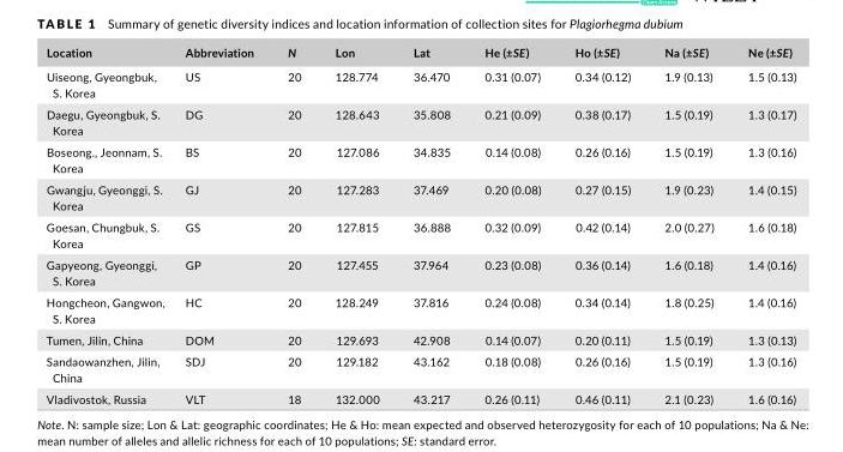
<table><thead><tr><td>Location</td><td>Abbreviation</td><td>N</td><td>Lon</td><td>Lat</td><td>He (±SE)</td><td>Ho (±SE)</td><td>Na (±SE)</td><td>Ne (±SE)</td></tr></thead><tbody><tr><td>Uiseong, Gyeongbuk, S. Korea</td><td>US</td><td>20</td><td>128.774</td><td>36.470</td><td>0.31 (0.07)</td><td>0.34 (0.12)</td><td>1.9 (0.13)</td><td>1.5 (0.13)</td></tr><tr><td>Daegu, Gyeongbuk, S. Korea</td><td>DG</td><td>20</td><td>128.643</td><td>35.808</td><td>0.21 (0.09)</td><td>0.38 (0.17)</td><td>1.5 (0.19)</td><td>1.3 (0.17)</td></tr><tr><td>Boseong., Jeonnam, S. Korea</td><td>BS</td><td>20</td><td>127.086</td><td>34.835</td><td>0.14 (0.08)</td><td>0.26 (0.16)</td><td>1.5 (0.19)</td><td>1.3 (0.16)</td></tr><tr><td>Gwangju, Gyeonggi, S. Korea</td><td>GJ</td><td>20</td><td>127.283</td><td>37.469</td><td>0.20 (0.08)</td><td>0.27 (0.15)</td><td>1.9 (0.23)</td><td>1.4 (0.15)</td></tr><tr><td>Goesan, Chungbuk, S. Korea</td><td>GS</td><td>20</td><td>127.815</td><td>36.888</td><td>0.32 (0.09)</td><td>0.42 (0.14)</td><td>2.0 (0.27)</td><td>1.6 (0.18)</td></tr><tr><td>Gapyeong, Gyeonggi, S. Korea</td><td>GP</td><td>20</td><td>127.455</td><td>37.964</td><td>0.23 (0.08)</td><td>0.36 (0.14)</td><td>1.6 (0.18)</td><td>1.4 (0.16)</td></tr><tr><td>Hongcheon, Gangwon, S. Korea</td><td>HC</td><td>20</td><td>128.249</td><td>37.816</td><td>0.24 (0.08)</td><td>0.34 (0.14)</td><td>1.8 (0.25)</td><td>1.4 (0.16)</td></tr><tr><td>Tumen, Jilin, China</td><td>DOM</td><td>20</td><td>129.693</td><td>42.908</td><td>0.14 (0.07)</td><td>0.20 (0.11)</td><td>1.5 (0.19)</td><td>1.3 (0.13)</td></tr><tr><td>Sandaowanzhen, Jilin, China</td><td>SDJ</td><td>20</td><td>129.182</td><td>43.162</td><td>0.18 (0.08)</td><td>0.26 (0.16)</td><td>1.5 (0.19)</td><td>1.3 (0.16)</td></tr><tr><td>Vladivostok, Russia</td><td>VLT</td><td>18</td><td>132.000</td><td>43.217</td><td>0.26 (0.11)</td><td>0.46 (0.11)</td><td>2.1 (0.23)</td><td>1.6 (0.16)</td></tr></tbody></table>